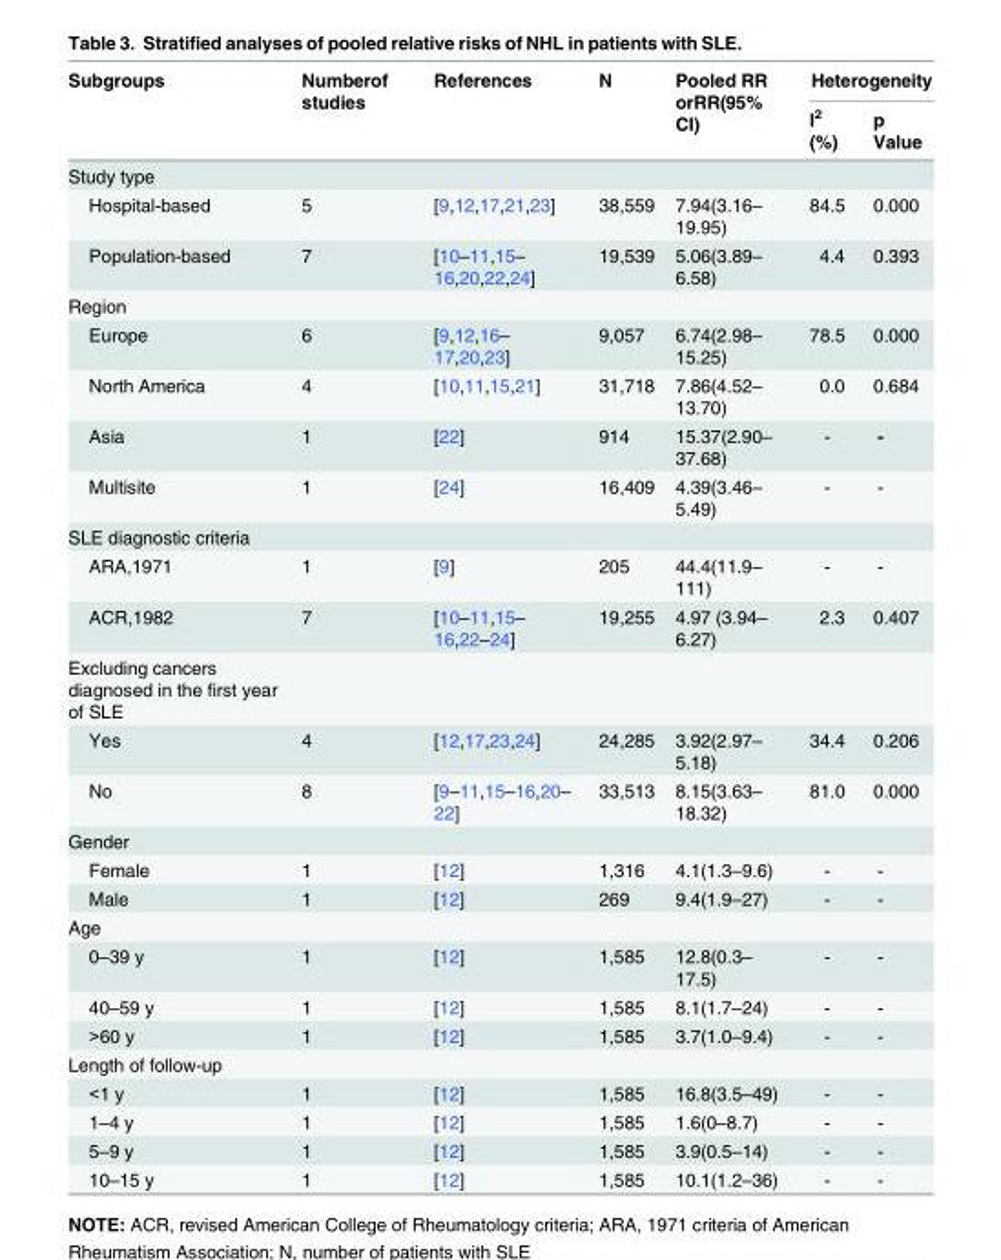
<table><thead><tr><td rowspan="2">Subgroups</td><td rowspan="2">Numberof studies</td><td rowspan="2">References</td><td rowspan="2">N</td><td rowspan="2">Pooled RR orRR(95% CI)</td><td colspan="2">Heterogeneity</td></tr><tr><td>I<sup>2</sup> (%)</td><td>p Value</td></tr></thead><tbody><tr><td colspan="7">Study type</td></tr><tr><td>Hospital-based</td><td>5</td><td>[9,12,17,21,23]</td><td>38,559</td><td>7.94(3.16– 19.95)</td><td>84.5</td><td>0.000</td></tr><tr><td>Population-based</td><td>7</td><td>[10–11,15– 16,20,22,24]</td><td>19,539</td><td>5.06(3.89– 6.58)</td><td>4.4</td><td>0.393</td></tr><tr><td colspan="7">Region</td></tr><tr><td>Europe</td><td>6</td><td>[9,12,16– 17,20,23]</td><td>9,057</td><td>6.74(2.98– 15.25)</td><td>78.5</td><td>0.000</td></tr><tr><td>North America</td><td>4</td><td>[10,11,15,21]</td><td>31,718</td><td>7.86(4.52– 13.70)</td><td>0.0</td><td>0.684</td></tr><tr><td>Asia</td><td>1</td><td>[22]</td><td>914</td><td>15.37(2.90– 37.68)</td><td>-</td><td>-</td></tr><tr><td>Multisite</td><td>1</td><td>[24]</td><td>16,409</td><td>4.39(3.46– 5.49)</td><td>-</td><td>-</td></tr><tr><td colspan="7">SLE diagnostic criteria</td></tr><tr><td>ARA,1971</td><td>1</td><td>[9]</td><td>205</td><td>44.4(11.9– 111)</td><td>-</td><td>-</td></tr><tr><td>ACR,1982</td><td>7</td><td>[10–11,15– 16,22–24]</td><td>19,255</td><td>4.97 (3.94– 6.27)</td><td>2.3</td><td>0.407</td></tr><tr><td colspan="7">Excluding cancers diagnosed in the first year of SLE</td></tr><tr><td>Yes</td><td>4</td><td>[12,17,23,24]</td><td>24,285</td><td>3.92(2.97– 5.18)</td><td>34.4</td><td>0.206</td></tr><tr><td>No</td><td>8</td><td>[9–11,15–16,20– 22]</td><td>33,513</td><td>8.15(3.63– 18.32)</td><td>81.0</td><td>0.000</td></tr><tr><td colspan="7">Gender</td></tr><tr><td>Female</td><td>1</td><td>[12]</td><td>1,316</td><td>4.1(1.3–9.6)</td><td>-</td><td>-</td></tr><tr><td>Male</td><td>1</td><td>[12]</td><td>269</td><td>9.4(1.9–27)</td><td>-</td><td>-</td></tr><tr><td colspan="7">Age</td></tr><tr><td>0–39 y</td><td>1</td><td>[12]</td><td>1,585</td><td>12.8(0.3– 17.5)</td><td>-</td><td>-</td></tr><tr><td>40–59 y</td><td>1</td><td>[12]</td><td>1,585</td><td>8.1(1.7–24)</td><td>-</td><td>-</td></tr><tr><td>&gt;60 y</td><td>1</td><td>[12]</td><td>1,585</td><td>3.7(1.0–9.4)</td><td>-</td><td>-</td></tr><tr><td colspan="7">Length of follow-up</td></tr><tr><td>&lt;1 y</td><td>1</td><td>[12]</td><td>1,585</td><td>16.8(3.5–49)</td><td>-</td><td>-</td></tr><tr><td>1–4 y</td><td>1</td><td>[12]</td><td>1,585</td><td>1.6(0–8.7)</td><td>-</td><td>-</td></tr><tr><td>5–9 y</td><td>1</td><td>[12]</td><td>1,585</td><td>3.9(0.5–14)</td><td>-</td><td>-</td></tr><tr><td>10–15 y</td><td>1</td><td>[12]</td><td>1,585</td><td>10.1(1.2–36)</td><td>-</td><td>-</td></tr></tbody></table>